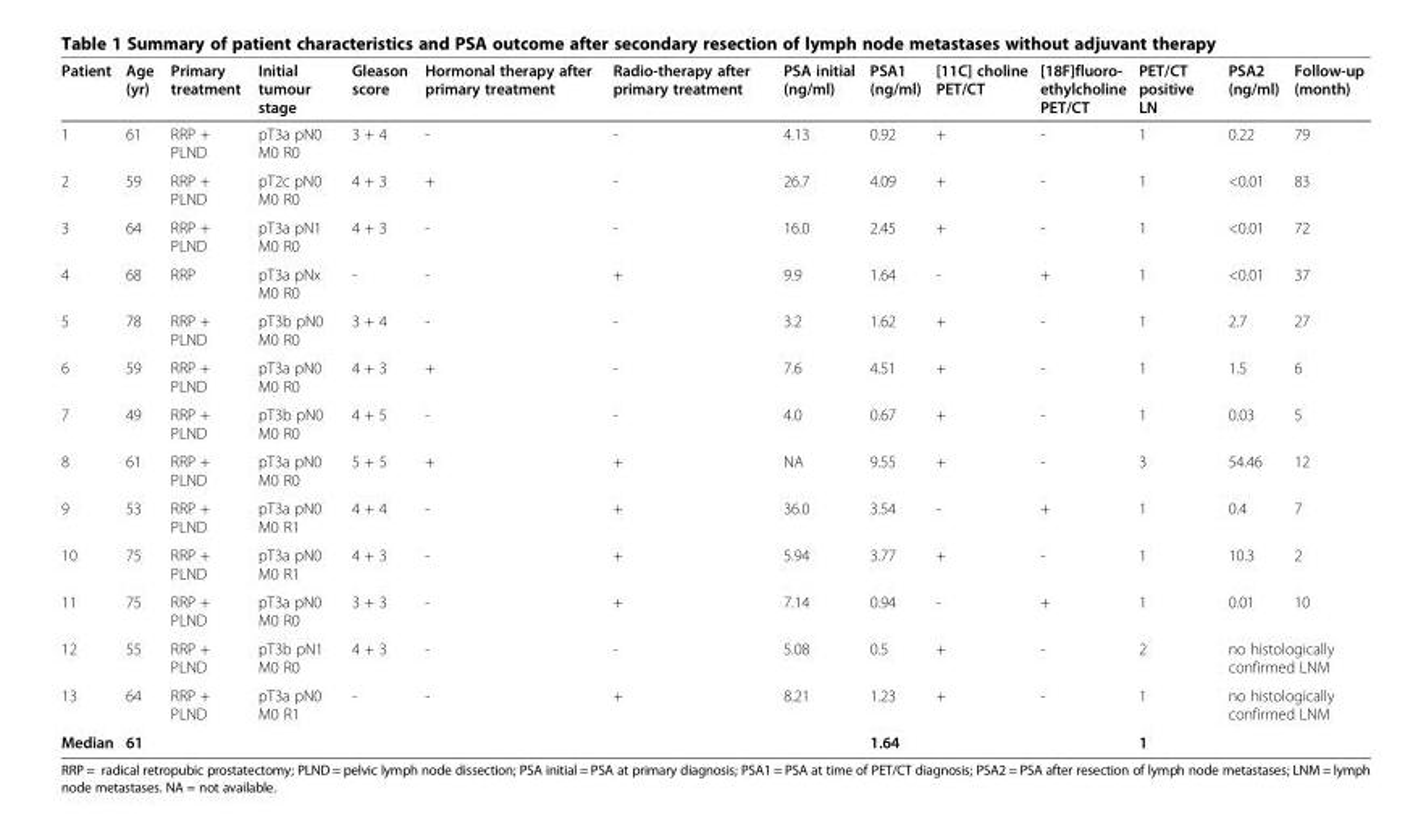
<table><thead><tr><td>Patient</td><td>Age (yr)</td><td>Primary treatment</td><td>Initial tumour stage</td><td>Gleason score</td><td>Hormonal therapy after primary treatment</td><td>Radio-therapy after primary treatment</td><td>PSA initial (ng/ml)</td><td>PSA1 (ng/ml)</td><td>[11C] choline PET/CT</td><td>[18F]fluoro- ethylcholine PET/CT</td><td>PET/CT positive LN</td><td>PSA2 (ng/ml)</td><td>Follow-up (month)</td></tr></thead><tbody><tr><td>1</td><td>61</td><td>RRP + PLND</td><td>pT3a pN0 M0 R0</td><td>3 + 4</td><td>-</td><td>-</td><td>4.13</td><td>0.92</td><td>+</td><td>-</td><td>1</td><td>0.22</td><td>79</td></tr><tr><td>2</td><td>59</td><td>RRP + PLND</td><td>pT2c pN0 M0 R0</td><td>4 + 3</td><td>+</td><td>-</td><td>26.7</td><td>4.09</td><td>+</td><td>-</td><td>1</td><td>&lt;0.01</td><td>83</td></tr><tr><td>3</td><td>64</td><td>RRP + PLND</td><td>pT3a pN1 M0 R0</td><td>4 + 3</td><td>-</td><td>-</td><td>16.0</td><td>2.45</td><td>+</td><td>-</td><td>1</td><td>&lt;0.01</td><td>72</td></tr><tr><td>4</td><td>68</td><td>RRP</td><td>pT3a pNx M0 R0</td><td>-</td><td>-</td><td>+</td><td>9.9</td><td>1.64</td><td>-</td><td>+</td><td>1</td><td>&lt;0.01</td><td>37</td></tr><tr><td>5</td><td>78</td><td>RRP + PLND</td><td>pT3b pN0 M0 R0</td><td>3 + 4</td><td>-</td><td>-</td><td>3.2</td><td>1.62</td><td>+</td><td>-</td><td>1</td><td>2.7</td><td>27</td></tr><tr><td>6</td><td>59</td><td>RRP + PLND</td><td>pT3a pN0 M0 R0</td><td>4 + 3</td><td>+</td><td>-</td><td>7.6</td><td>4.51</td><td>+</td><td>-</td><td>1</td><td>1.5</td><td>6</td></tr><tr><td>7</td><td>49</td><td>RRP + PLND</td><td>pT3b pN0 M0 R0</td><td>4 + 5</td><td>-</td><td>-</td><td>4.0</td><td>0.67</td><td>+</td><td>-</td><td>1</td><td>0.03</td><td>5</td></tr><tr><td>8</td><td>61</td><td>RRP + PLND</td><td>pT3a pN0 M0 R0</td><td>5 + 5</td><td>+</td><td>+</td><td>NA</td><td>9.55</td><td>+</td><td>-</td><td>3</td><td>54.46</td><td>12</td></tr><tr><td>9</td><td>53</td><td>RRP + PLND</td><td>pT3a pN0 M0 R1</td><td>4 + 4</td><td>-</td><td>+</td><td>36.0</td><td>3.54</td><td>-</td><td>+</td><td>1</td><td>0.4</td><td>7</td></tr><tr><td>10</td><td>75</td><td>RRP + PLND</td><td>pT3a pN0 M0 R1</td><td>4 + 3</td><td>-</td><td>+</td><td>5.94</td><td>3.77</td><td>+</td><td>-</td><td>1</td><td>10.3</td><td>2</td></tr><tr><td>11</td><td>75</td><td>RRP + PLND</td><td>pT3a pN0 M0 R0</td><td>3 + 3</td><td>-</td><td>+</td><td>7.14</td><td>0.94</td><td>-</td><td>+</td><td>1</td><td>0.01</td><td>10</td></tr><tr><td>12</td><td>55</td><td>RRP + PLND</td><td>pT3b pN1 M0 R0</td><td>4 + 3</td><td>-</td><td>-</td><td>5.08</td><td>0.5</td><td>+</td><td>-</td><td>2</td><td colspan="2">no histologically confirmed LNM</td></tr><tr><td>13</td><td>64</td><td>RRP + PLND</td><td>pT3a pN0 M0 R1</td><td>-</td><td>-</td><td>+</td><td>8.21</td><td>1.23</td><td>+</td><td>-</td><td>1</td><td colspan="2">no histologically confirmed LNM</td></tr><tr><td>Median</td><td>61</td><td></td><td></td><td></td><td></td><td></td><td></td><td>1.64</td><td></td><td></td><td>1</td><td colspan="2"></td></tr></tbody></table>